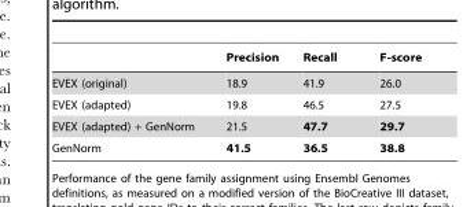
<table><thead><tr><td></td><td>Precision</td><td>Recall</td><td>F-score</td></tr></thead><tbody><tr><td>EVEX (original)</td><td>18.9</td><td>41.9</td><td>26.0</td></tr><tr><td>EVEX (adapted)</td><td>19.8</td><td>46.5</td><td>27.5</td></tr><tr><td>EVEX (adapted) + GenNorm</td><td>21.5</td><td>47.7</td><td>29.7</td></tr><tr><td>GenNorm</td><td>41.5</td><td>36.5</td><td>38.8</td></tr></tbody></table>